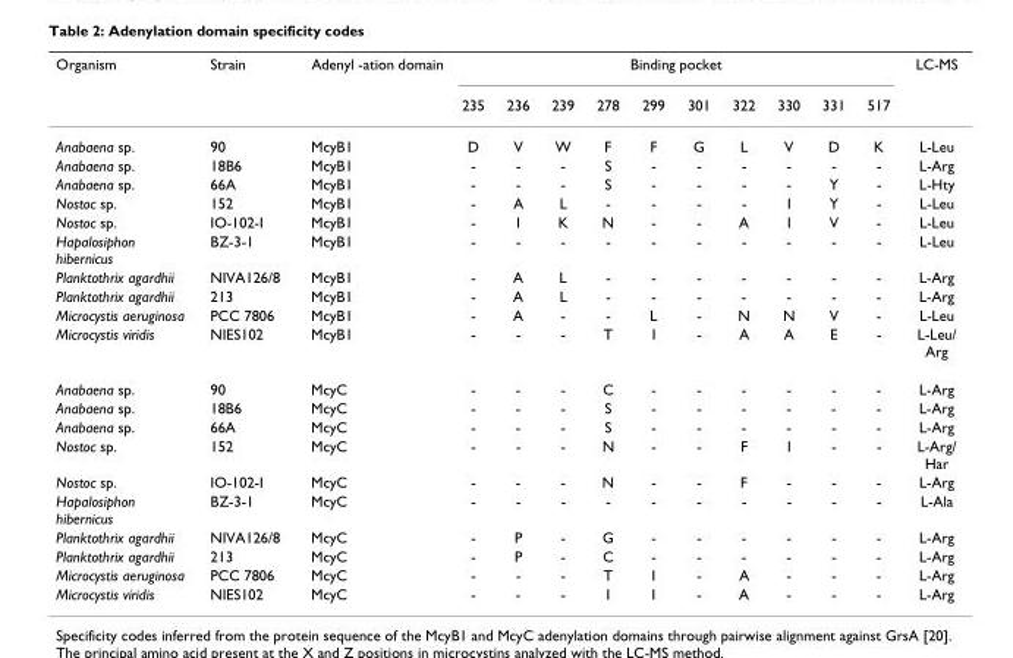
<table><thead><tr><td rowspan="2">Organism</td><td rowspan="2">Strain</td><td rowspan="2">Adenyl -ation domain</td><td colspan="10">Binding pocket</td><td rowspan="2">LC-MS</td></tr><tr><td>235</td><td>236</td><td>239</td><td>278</td><td>299</td><td>301</td><td>322</td><td>330</td><td>331</td><td>517</td></tr></thead><tbody><tr><td>Anabaena sp.</td><td>90</td><td>McyB1</td><td>D</td><td>V</td><td>W</td><td>F</td><td>F</td><td>G</td><td>L</td><td>V</td><td>D</td><td>K</td><td>L-Leu</td></tr><tr><td>Anabaena sp.</td><td>18B6</td><td>McyB1</td><td>-</td><td>-</td><td>-</td><td>S</td><td>-</td><td>-</td><td>-</td><td>-</td><td>-</td><td>-</td><td>L-Arg</td></tr><tr><td>Anabaena sp.</td><td>66A</td><td>McyB1</td><td>-</td><td>-</td><td>-</td><td>S</td><td>-</td><td>-</td><td>-</td><td>-</td><td>Y</td><td>-</td><td>L-Hty</td></tr><tr><td>Nostoc sp.</td><td>152</td><td>McyB1</td><td>-</td><td>A</td><td>L</td><td>-</td><td>-</td><td>-</td><td>-</td><td>I</td><td>Y</td><td>-</td><td>L-Leu</td></tr><tr><td>Nostoc sp.</td><td>IO-102-I</td><td>McyB1</td><td>-</td><td>I</td><td>K</td><td>N</td><td>-</td><td>-</td><td>A</td><td>I</td><td>V</td><td>-</td><td>L-Leu</td></tr><tr><td>Hapalosiphon hibernicus</td><td>BZ-3-1</td><td>McyB1</td><td>-</td><td>-</td><td>-</td><td>-</td><td>-</td><td>-</td><td>-</td><td>-</td><td>-</td><td>-</td><td>L-Leu</td></tr><tr><td>Planktothrix agardhii</td><td>NIVA126/8</td><td>McyB1</td><td>-</td><td>A</td><td>L</td><td>-</td><td>-</td><td>-</td><td>-</td><td>-</td><td>-</td><td>-</td><td>L-Arg</td></tr><tr><td>Planktothrix agardhii</td><td>213</td><td>McyB1</td><td>-</td><td>A</td><td>L</td><td>-</td><td>-</td><td>-</td><td>-</td><td>-</td><td>-</td><td>-</td><td>L-Arg</td></tr><tr><td>Microcystis aeruginosa</td><td>PCC 7806</td><td>McyB1</td><td>-</td><td>A</td><td>-</td><td>-</td><td>L</td><td>-</td><td>N</td><td>N</td><td>V</td><td>-</td><td>L-Leu</td></tr><tr><td>Microcystis viridis</td><td>NIES102</td><td>McyB1</td><td>-</td><td>-</td><td>-</td><td>T</td><td>I</td><td>-</td><td>A</td><td>A</td><td>E</td><td>-</td><td>L-Leu/ Arg</td></tr><tr><td>Anabaena sp.</td><td>90</td><td>McyC</td><td>-</td><td>-</td><td>-</td><td>C</td><td>-</td><td>-</td><td>-</td><td>-</td><td>-</td><td>-</td><td>L-Arg</td></tr><tr><td>Anabaena sp.</td><td>18B6</td><td>McyC</td><td>-</td><td>-</td><td>-</td><td>S</td><td>-</td><td>-</td><td>-</td><td>-</td><td>-</td><td>-</td><td>L-Arg</td></tr><tr><td>Anabaena sp.</td><td>66A</td><td>McyC</td><td>-</td><td>-</td><td>-</td><td>S</td><td>-</td><td>-</td><td>-</td><td>-</td><td>-</td><td>-</td><td>L-Arg</td></tr><tr><td>Nostoc sp.</td><td>152</td><td>McyC</td><td>-</td><td>-</td><td>-</td><td>N</td><td>-</td><td>-</td><td>F</td><td>I</td><td>-</td><td>-</td><td>L-Arg/ Har</td></tr><tr><td>Nostoc sp.</td><td>IO-102-I</td><td>McyC</td><td>-</td><td>-</td><td>-</td><td>N</td><td>-</td><td>-</td><td>F</td><td>-</td><td>-</td><td>-</td><td>L-Arg</td></tr><tr><td>Hapalosiphon hibernicus</td><td>BZ-3-1</td><td>McyC</td><td>-</td><td>-</td><td>-</td><td>-</td><td>-</td><td>-</td><td>-</td><td>-</td><td>-</td><td>-</td><td>L-Ala</td></tr><tr><td>Planktothrix agardhii</td><td>NIVA126/8</td><td>McyC</td><td>-</td><td>P</td><td>-</td><td>G</td><td>-</td><td>-</td><td>-</td><td>-</td><td>-</td><td>-</td><td>L-Arg</td></tr><tr><td>Planktothrix agardhii</td><td>213</td><td>McyC</td><td>-</td><td>P</td><td>-</td><td>C</td><td>-</td><td>-</td><td>-</td><td>-</td><td>-</td><td>-</td><td>L-Arg</td></tr><tr><td>Microcystis aeruginosa</td><td>PCC 7806</td><td>McyC</td><td>-</td><td>-</td><td>-</td><td>T</td><td>I</td><td>-</td><td>A</td><td>-</td><td>-</td><td>-</td><td>L-Arg</td></tr><tr><td>Microcystis viridis</td><td>NIES102</td><td>McyC</td><td>-</td><td>-</td><td>-</td><td>I</td><td>I</td><td>-</td><td>A</td><td>-</td><td>-</td><td>-</td><td>L-Arg</td></tr></tbody></table>